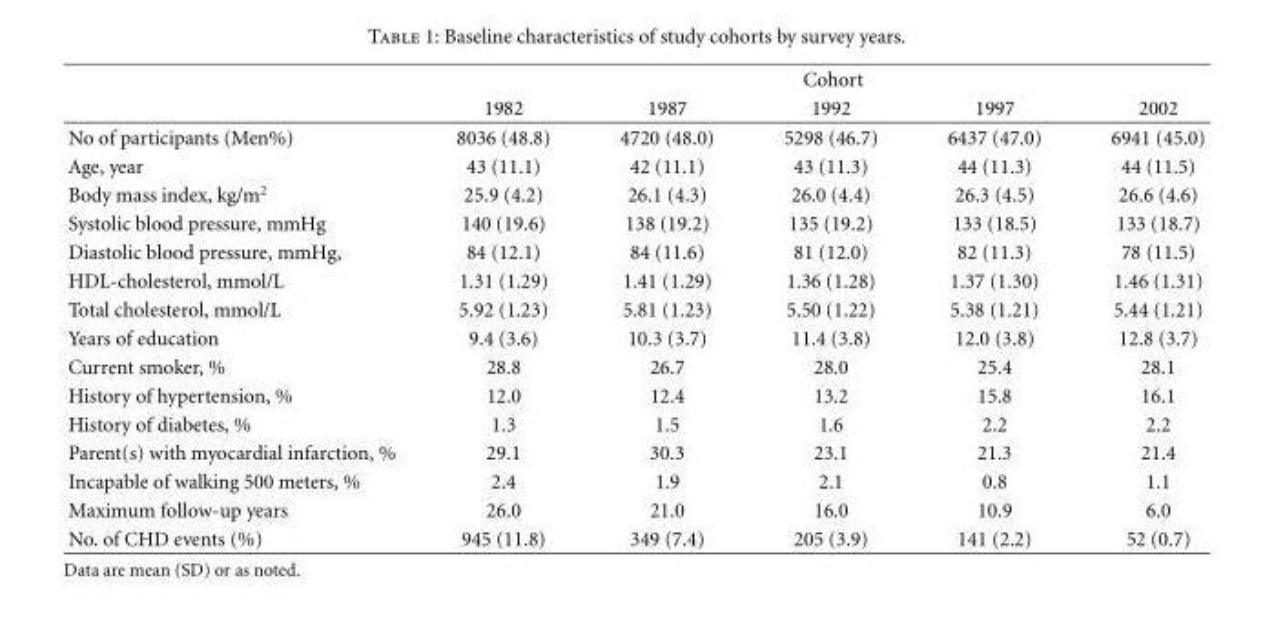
<table><thead><tr><td rowspan="2"></td><td colspan="5">Cohort</td></tr><tr><td>1982</td><td>1987</td><td>1992</td><td>1997</td><td>2002</td></tr></thead><tbody><tr><td>No of participants (Men%)</td><td>8036 (48.8)</td><td>4720 (48.0)</td><td>5298 (46.7)</td><td>6437 (47.0)</td><td>6941 (45.0)</td></tr><tr><td>Age, year</td><td>43 (11.1)</td><td>42 (11.1)</td><td>43 (11.3)</td><td>44 (11.3)</td><td>44 (11.5)</td></tr><tr><td>Body mass index, kg/m<sup>2</sup></td><td>25.9 (4.2)</td><td>26.1 (4.3)</td><td>26.0 (4.4)</td><td>26.3 (4.5)</td><td>26.6 (4.6)</td></tr><tr><td>Systolic blood pressure, mmHg</td><td>140 (19.6)</td><td>138 (19.2)</td><td>135 (19.2)</td><td>133 (18.5)</td><td>133 (18.7)</td></tr><tr><td>Diastolic blood pressure, mmHg,</td><td>84 (12.1)</td><td>84 (11.6)</td><td>81 (12.0)</td><td>82 (11.3)</td><td>78 (11.5)</td></tr><tr><td>HDL-cholesterol, mmol/L</td><td>1.31 (1.29)</td><td>1.41 (1.29)</td><td>1.36 (1.28)</td><td>1.37 (1.30)</td><td>1.46 (1.31)</td></tr><tr><td>Total cholesterol, mmol/L</td><td>5.92 (1.23)</td><td>5.81 (1.23)</td><td>5.50 (1.22)</td><td>5.38 (1.21)</td><td>5.44 (1.21)</td></tr><tr><td>Years of education</td><td>9.4 (3.6)</td><td>10.3 (3.7)</td><td>11.4 (3.8)</td><td>12.0 (3.8)</td><td>12.8 (3.7)</td></tr><tr><td>Current smoker, %</td><td>28.8</td><td>26.7</td><td>28.0</td><td>25.4</td><td>28.1</td></tr><tr><td>History of hypertension, %</td><td>12.0</td><td>12.4</td><td>13.2</td><td>15.8</td><td>16.1</td></tr><tr><td>History of diabetes, %</td><td>1.3</td><td>1.5</td><td>1.6</td><td>2.2</td><td>2.2</td></tr><tr><td>Parent(s) with myocardial infarction, %</td><td>29.1</td><td>30.3</td><td>23.1</td><td>21.3</td><td>21.4</td></tr><tr><td>Incapable of walking 500 meters, %</td><td>2.4</td><td>1.9</td><td>2.1</td><td>0.8</td><td>1.1</td></tr><tr><td>Maximum follow-up years</td><td>26.0</td><td>21.0</td><td>16.0</td><td>10.9</td><td>6.0</td></tr><tr><td>No. of CHD events (%)</td><td>945 (11.8)</td><td>349 (7.4)</td><td>205 (3.9)</td><td>141 (2.2)</td><td>52 (0.7)</td></tr></tbody></table>